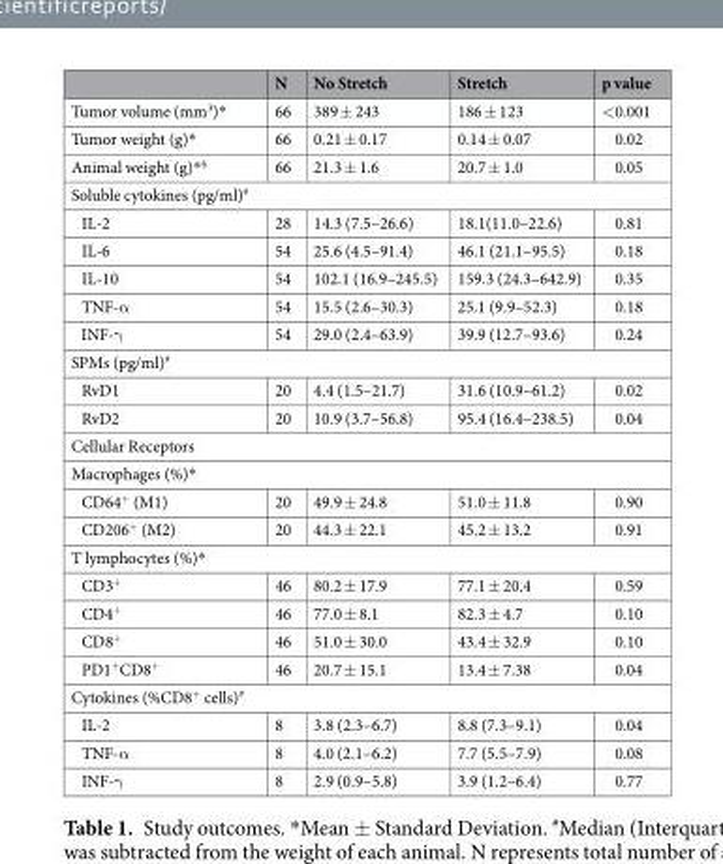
<table><thead><tr><td></td><td>N</td><td>No Stretch</td><td>Stretch</td><td>p value</td></tr></thead><tbody><tr><td>Tumor volume (mm<sup>3</sup>)*</td><td>66</td><td>389 ± 243</td><td>186 ± 123</td><td>&lt;0.001</td></tr><tr><td>Tumor weight (g)*</td><td>66</td><td>0.21 ± 0.17</td><td>0.14 ± 0.07</td><td>0.02</td></tr><tr><td>Animal weight (g)*<sup>§</sup></td><td>66</td><td>21.3 ± 1.6</td><td>20.7 ± 1.0</td><td>0.05</td></tr><tr><td colspan="5">Soluble cytokines (pg/ml)<sup>#</sup></td></tr><tr><td>IL-2</td><td>28</td><td>14.3 (7.5–26.6)</td><td>18.1(11.0–22.6)</td><td>0.81</td></tr><tr><td>IL-6</td><td>54</td><td>25.6 (4.5–91.4)</td><td>46.1 (21.1–95.5)</td><td>0.18</td></tr><tr><td>IL-10</td><td>54</td><td>102.1 (16.9–245.5)</td><td>159.3 (24.3–642.9)</td><td>0.35</td></tr><tr><td>TNF-α</td><td>54</td><td>15.5 (2.6–30.3)</td><td>25.1 (9.9–52.3)</td><td>0.18</td></tr><tr><td>INF-γ</td><td>54</td><td>29.0 (2.4–63.9)</td><td>39.9 (12.7–93.6)</td><td>0.24</td></tr><tr><td colspan="5">SPMs (pg/ml)<sup>#</sup></td></tr><tr><td>RvD1</td><td>20</td><td>4.4 (1.5–21.7)</td><td>31.6 (10.9–61.2)</td><td>0.02</td></tr><tr><td>RvD2</td><td>20</td><td>10.9 (3.7–56.8)</td><td>95.4 (16.4–238.5)</td><td>0.04</td></tr><tr><td colspan="5">Cellular Receptors</td></tr><tr><td colspan="5">Macrophages (%)*</td></tr><tr><td>CD64<sup>+</sup> (M1)</td><td>20</td><td>49.9 ± 24.8</td><td>51.0 ± 11.8</td><td>0.90</td></tr><tr><td>CD206<sup>+</sup> (M2)</td><td>20</td><td>44.3 ± 22.1</td><td>45.2 ± 13.2</td><td>0.91</td></tr><tr><td colspan="5">T lymphocytes (%)*</td></tr><tr><td>CD3<sup>+</sup></td><td>46</td><td>80.2 ± 17.9</td><td>77.1 ± 20.4</td><td>0.59</td></tr><tr><td>CD4<sup>+</sup></td><td>46</td><td>77.0 ± 8.1</td><td>82.3 ± 4.7</td><td>0.10</td></tr><tr><td>CD8<sup>+</sup></td><td>46</td><td>51.0 ± 30.0</td><td>43.4 ± 32.9</td><td>0.10</td></tr><tr><td>PD1<sup>+</sup>CD8<sup>+</sup></td><td>46</td><td>20.7 ± 15.1</td><td>13.4 ± 7.38</td><td>0.04</td></tr><tr><td colspan="5">Cytokines (%CD8<sup>+</sup> cells)<sup>#</sup></td></tr><tr><td>IL-2</td><td>8</td><td>3.8 (2.3–6.7)</td><td>8.8 (7.3–9.1)</td><td>0.04</td></tr><tr><td>TNF-α</td><td>8</td><td>4.0 (2.1–6.2)</td><td>7.7 (5.5–7.9)</td><td>0.08</td></tr><tr><td>INF-γ</td><td>8</td><td>2.9 (0.9–5.8)</td><td>3.9 (1.2–6.4)</td><td>0.77</td></tr></tbody></table>